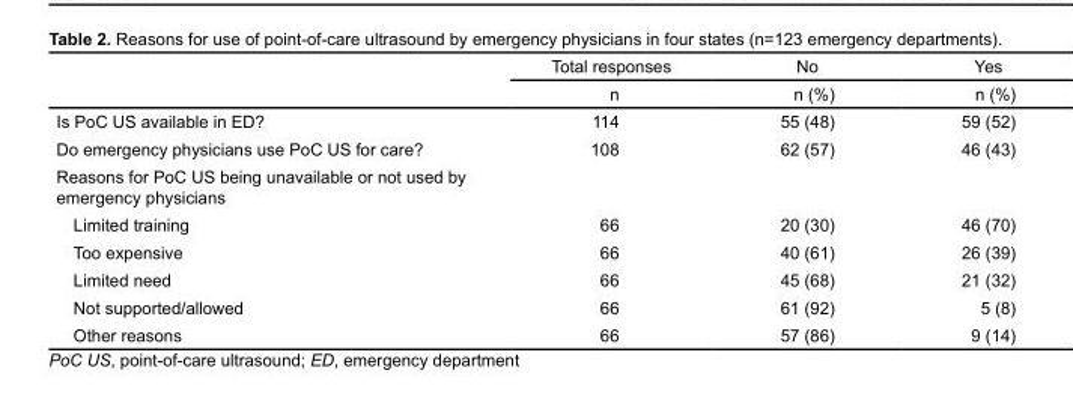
<table><thead><tr><td rowspan="2"></td><td rowspan="2">Total responses n</td><td rowspan="2">No n (%)</td><td rowspan="2">Yes n (%)</td></tr><tr></tr></thead><tbody><tr><td>Is PoC US available in ED?</td><td>114</td><td>55 (48)</td><td>59 (52)</td></tr><tr><td>Do emergency physicians use PoC US for care?</td><td>108</td><td>62 (57)</td><td>46 (43)</td></tr><tr><td colspan="4">Reasons for PoC US being unavailable or not used by emergency physicians</td></tr><tr><td>Limited training</td><td>66</td><td>20 (30)</td><td>46 (70)</td></tr><tr><td>Too expensive</td><td>66</td><td>40 (61)</td><td>26 (39)</td></tr><tr><td>Limited need</td><td>66</td><td>45 (68)</td><td>21 (32)</td></tr><tr><td>Not supported/allowed</td><td>66</td><td>61 (92)</td><td>5 (8)</td></tr><tr><td>Other reasons</td><td>66</td><td>57 (86)</td><td>9 (14)</td></tr></tbody></table>